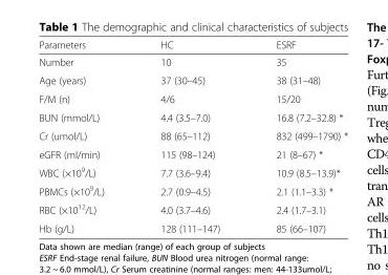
<table><thead><tr><td>Parameters</td><td>HC</td><td>ESRF</td></tr></thead><tbody><tr><td>Number</td><td>10</td><td>35</td></tr><tr><td>Age (years)</td><td>37 (30–45)</td><td>38 (31–48)</td></tr><tr><td>F/M (n)</td><td>4/6</td><td>15/20</td></tr><tr><td>BUN (mmol/L)</td><td>4.4 (3.5–7.0)</td><td>16.8 (7.2–32.8) *</td></tr><tr><td>Cr (umol/L)</td><td>88 (65–112)</td><td>832 (499–1790) *</td></tr><tr><td>eGFR (ml/min)</td><td>115 (98–124)</td><td>21 (8–67) *</td></tr><tr><td>WBC (×10<sup>9</sup>/L)</td><td>7.7 (3.6–9.4)</td><td>10.9 (8.5–13.9)*</td></tr><tr><td>PBMCs (×10<sup>9</sup>/L)</td><td>2.7 (0.9–4.5)</td><td>2.1 (1.1–3.3) *</td></tr><tr><td>RBC (×10<sup>12</sup>/L)</td><td>4.0 (3.7–4.6)</td><td>2.4 (1.7–3.1)</td></tr><tr><td>Hb (g/L)</td><td>128 (111–147)</td><td>85 (66–107)</td></tr></tbody></table>